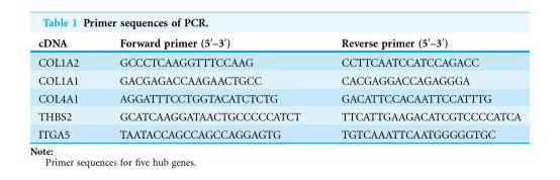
<table><thead><tr><td>cDNA</td><td>Forward primer (5′–3′)</td><td>Reverse primer (5′–3′)</td></tr></thead><tbody><tr><td>COL1A2</td><td>GCCCTCAAGGTTTCCAAG</td><td>CCTTCAATCCATCCAGACC</td></tr><tr><td>COL1A1</td><td>GACGAGACCAAGAACTGCC</td><td>CACGAGGACCAGAGGGA</td></tr><tr><td>COL4A1</td><td>AGGATTTCCTGGTACATCTCTG</td><td>GACATTCCACAATTCCATTTG</td></tr><tr><td>THBS2</td><td>GCATCAAGGATAACTGCCCCCATCT</td><td>TTCATTGAAGACATCGTCCCCATCA</td></tr><tr><td>ITGA5</td><td>TAATACCAGCCAGCCAGGAGTG</td><td>TGTCAAATTCAATGGGGGTGC</td></tr></tbody></table>